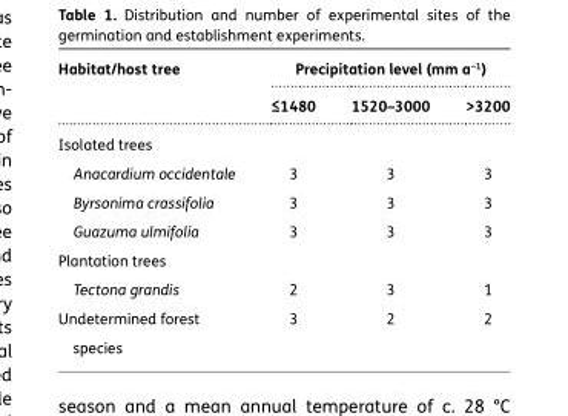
<table><thead><tr><td rowspan="2">Habitat/host tree</td><td colspan="3">Precipitation level (mm a<sup>−1</sup>)</td></tr><tr><td>≤1480</td><td>1520–3000</td><td>&gt;3200</td></tr></thead><tbody><tr><td colspan="4">Isolated trees</td></tr><tr><td>Anacardium occidentale</td><td>3</td><td>3</td><td>3</td></tr><tr><td>Byrsonima crassifolia</td><td>3</td><td>3</td><td>3</td></tr><tr><td>Guazuma ulmifolia</td><td>3</td><td>3</td><td>3</td></tr><tr><td colspan="4">Plantation trees</td></tr><tr><td>Tectona grandis</td><td>2</td><td>3</td><td>1</td></tr><tr><td>Undetermined forest species</td><td>3</td><td>2</td><td>2</td></tr></tbody></table>